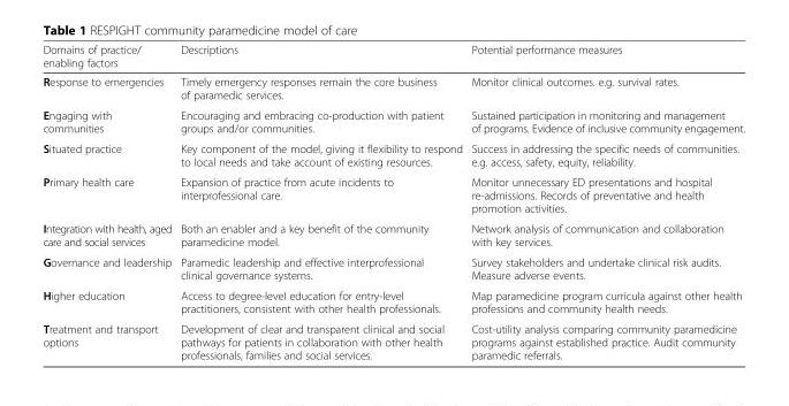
<table><thead><tr><td>Domains of practice/ enabling factors</td><td>Descriptions</td><td>Potential performance measures</td></tr></thead><tbody><tr><td>Response to emergencies</td><td>Timely emergency responses remain the core business of paramedic services.</td><td>Monitor clinical outcomes. e.g. survival rates.</td></tr><tr><td>Engaging with communities</td><td>Encouraging and embracing co-production with patient groups and/or communities.</td><td>Sustained participation in monitoring and management of programs. Evidence of inclusive community engagement.</td></tr><tr><td>Situated practice</td><td>Key component of the model, giving it flexibility to respond to local needs and take account of existing resources.</td><td>Success in addressing the specific needs of communities. e.g. access, safety, equity, reliability.</td></tr><tr><td>Primary health care</td><td>Expansion of practice from acute incidents to interprofessional care.</td><td>Monitor unnecessary ED presentations and hospital re-admissions. Records of preventative and health promotion activities.</td></tr><tr><td>Integration with health, aged care and social services</td><td>Both an enabler and a key benefit of the community paramedicine model.</td><td>Network analysis of communication and collaboration with key services.</td></tr><tr><td>Governance and leadership</td><td>Paramedic leadership and effective interprofessional clinical governance systems.</td><td>Survey stakeholders and undertake clinical risk audits. Measure adverse events.</td></tr><tr><td>Higher education</td><td>Access to degree-level education for entry-level practitioners, consistent with other health professionals.</td><td>Map paramedicine program curricula against other health professions and community health needs.</td></tr><tr><td>Treatment and transport options</td><td>Development of clear and transparent clinical and social pathways for patients in collaboration with other health professionals, families and social services.</td><td>Cost-utility analysis comparing community paramedicine programs against established practice. Audit community paramedic referrals.</td></tr></tbody></table>